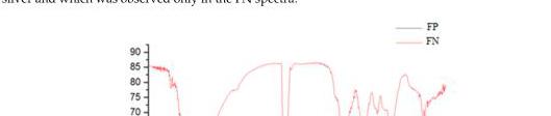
<table><thead><tr><td>Chemical Group</td><td>O–H</td><td>C–H</td><td>C–O–C</td><td>S=O</td><td>C–O–SO<sub>3</sub></td><td>C–O–S</td><td>“Silver Reduction”</td></tr></thead><tbody><tr><td>FP</td><td>3418.7</td><td>2941.5</td><td>1080.1</td><td>1228.8</td><td>1036.1</td><td>810.8</td><td>-</td></tr><tr><td>FN</td><td>3429.1</td><td>2942.0</td><td>1082.3</td><td>1130.4</td><td>1035.8</td><td>811.0</td><td>1383.8</td></tr></tbody></table>